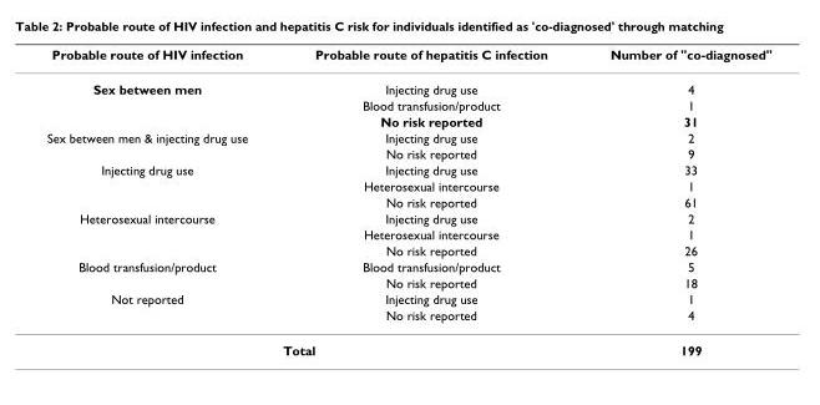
<table><thead><tr><td>Probable route of HIV infection</td><td>Probable route of hepatitis C infection</td><td>Number of &quot;co-diagnosed&quot;</td></tr></thead><tbody><tr><td rowspan="3">Sex between men</td><td>Injecting drug use</td><td>4</td></tr><tr><td>Blood transfusion/product</td><td>1</td></tr><tr><td>No risk reported</td><td>31</td></tr><tr><td rowspan="2">Sex between men &amp; injecting drug use</td><td>Injecting drug use</td><td>2</td></tr><tr><td>No risk reported</td><td>9</td></tr><tr><td rowspan="3">Injecting drug use</td><td>Injecting drug use</td><td>33</td></tr><tr><td>Heterosexual intercourse</td><td>1</td></tr><tr><td>No risk reported</td><td>61</td></tr><tr><td rowspan="3">Heterosexual intercourse</td><td>Injecting drug use</td><td>2</td></tr><tr><td>Heterosexual intercourse</td><td>1</td></tr><tr><td>No risk reported</td><td>26</td></tr><tr><td rowspan="2">Blood transfusion/product</td><td>Blood transfusion/product</td><td>5</td></tr><tr><td>No risk reported</td><td>18</td></tr><tr><td rowspan="2">Not reported</td><td>Injecting drug use</td><td>1</td></tr><tr><td>No risk reported</td><td>4</td></tr><tr><td colspan="2">Total</td><td>199</td></tr></tbody></table>